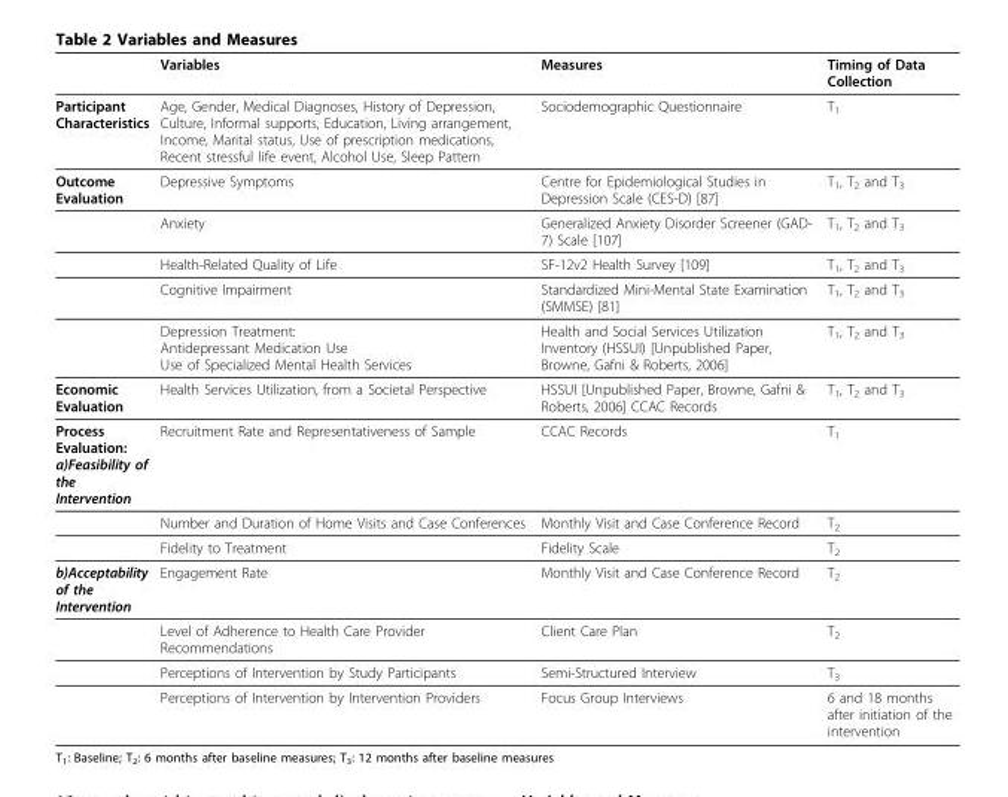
<table><thead><tr><td></td><td>Variables</td><td>Measures</td><td>Timing of Data Collection</td></tr></thead><tbody><tr><td>Participant Characteristics</td><td>Age, Gender, Medical Diagnoses, History of Depression, Culture, Informal supports, Education, Living arrangement, Income, Marital status, Use of prescription medications, Recent stressful life event, Alcohol Use, Sleep Pattern</td><td>Sociodemographic Questionnaire</td><td>T<sub>1</sub></td></tr><tr><td rowspan="5">Outcome Evaluation</td><td>Depressive Symptoms</td><td>Centre for Epidemiological Studies in Depression Scale (CES-D) [87]</td><td>T<sub>1</sub>, T<sub>2</sub> and T<sub>3</sub></td></tr><tr><td>Anxiety</td><td>Generalized Anxiety Disorder Screener (GAD- 7) Scale [107]</td><td>T<sub>1</sub>, T<sub>2</sub> and T<sub>3</sub></td></tr><tr><td>Health-Related Quality of Life</td><td>SF-12v2 Health Survey [109]</td><td>T<sub>1</sub>, T<sub>2</sub> and T<sub>3</sub></td></tr><tr><td>Cognitive Impairment</td><td>Standardized Mini-Mental State Examination (SMMSE) [81]</td><td>T<sub>1</sub>, T<sub>2</sub> and T<sub>3</sub></td></tr><tr><td>Depression Treatment: Antidepressant Medication Use Use of Specialized Mental Health Services</td><td>Health and Social Services Utilization Inventory (HSSUI) [Unpublished Paper, Browne, Gafni &amp; Roberts, 2006]</td><td>T<sub>1</sub>, T<sub>2</sub> and T<sub>3</sub></td></tr><tr><td>Economic Evaluation</td><td>Health Services Utilization, from a Societal Perspective</td><td>HSSUI [Unpublished Paper, Browne, Gafni &amp; Roberts, 2006] CCAC Records</td><td>T<sub>1</sub>, T<sub>2</sub> and T<sub>3</sub></td></tr><tr><td rowspan="3">Process Evaluation: a)Feasibility of the Intervention</td><td>Recruitment Rate and Representativeness of Sample</td><td>CCAC Records</td><td>T<sub>1</sub></td></tr><tr><td>Number and Duration of Home Visits and Case Conferences</td><td>Monthly Visit and Case Conference Record</td><td>T<sub>2</sub></td></tr><tr><td>Fidelity to Treatment</td><td>Fidelity Scale</td><td>T<sub>2</sub></td></tr><tr><td rowspan="4">b)Acceptability of the Intervention</td><td>Engagement Rate</td><td>Monthly Visit and Case Conference Record</td><td>T<sub>2</sub></td></tr><tr><td>Level of Adherence to Health Care Provider Recommendations</td><td>Client Care Plan</td><td>T<sub>2</sub></td></tr><tr><td>Perceptions of Intervention by Study Participants</td><td>Semi-Structured Interview</td><td>T<sub>3</sub></td></tr><tr><td>Perceptions of Intervention by Intervention Providers</td><td>Focus Group Interviews</td><td>6 and 18 months after initiation of the intervention</td></tr></tbody></table>